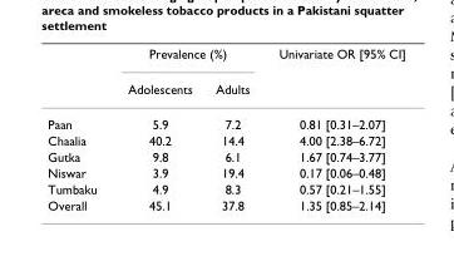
<table><thead><tr><td rowspan="2"></td><td colspan="2">Prevalence (%)</td><td rowspan="2">Univariate OR [95% CI]</td></tr><tr><td>Adolescents</td><td>Adults</td></tr></thead><tbody><tr><td>Paan</td><td>5.9</td><td>7.2</td><td>0.81 [0.31–2.07]</td></tr><tr><td>Chaalia</td><td>40.2</td><td>14.4</td><td>4.00 [2.38–6.72]</td></tr><tr><td>Gutka</td><td>9.8</td><td>6.1</td><td>1.67 [0.74–3.77]</td></tr><tr><td>Niswar</td><td>3.9</td><td>19.4</td><td>0.17 [0.06–0.48]</td></tr><tr><td>Tumbaku</td><td>4.9</td><td>8.3</td><td>0.57 [0.21–1.55]</td></tr><tr><td>Overall</td><td>45.1</td><td>37.8</td><td>1.35 [0.85–2.14]</td></tr></tbody></table>